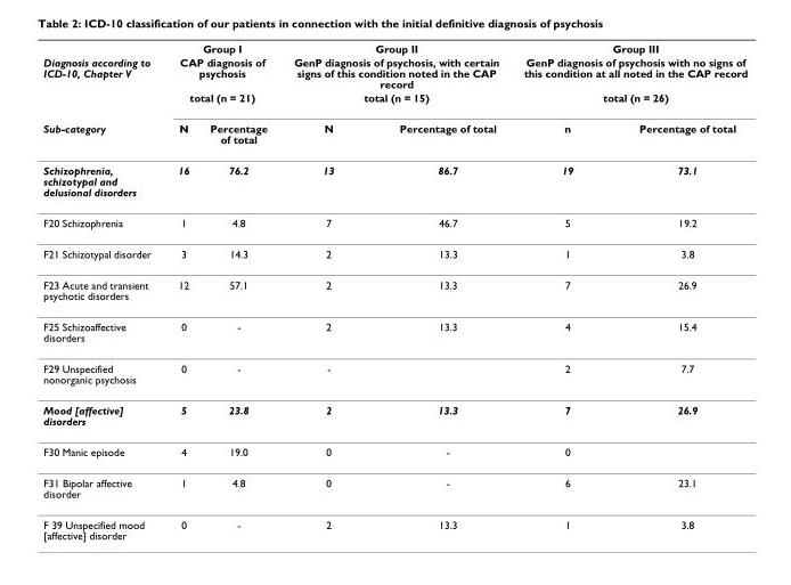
<table><thead><tr><td rowspan="4">Diagnosis according to ICD-10, Chapter V Sub-category</td><td rowspan="3" colspan="2">Group I CAP diagnosis of psychosis total (n = 21)</td><td rowspan="3" colspan="2">Group II GenP diagnosis of psychosis, with certain signs of this condition noted in the CAP record total (n = 15)</td><td rowspan="3" colspan="2">Group III GenP diagnosis of psychosis with no signs of this condition at all noted in the CAP record total (n = 26)</td></tr><tr></tr><tr></tr><tr><td>N</td><td>Percentage of total</td><td>N</td><td>Percentage of total</td><td>n</td><td>Percentage of total</td></tr></thead><tbody><tr><td>Schizophrenia, schizotypal and delusional disorders</td><td>16</td><td>76.2</td><td>13</td><td>86.7</td><td>19</td><td>73.1</td></tr><tr><td>F20 Schizophrenia</td><td>1</td><td>4.8</td><td>7</td><td>46.7</td><td>5</td><td>19.2</td></tr><tr><td>F21 Schizotypal disorder</td><td>3</td><td>14.3</td><td>2</td><td>13.3</td><td>1</td><td>3.8</td></tr><tr><td>F23 Acute and transient psychotic disorders</td><td>12</td><td>57.1</td><td>2</td><td>13.3</td><td>7</td><td>26.9</td></tr><tr><td>F25 Schizoaffective disorders</td><td>0</td><td>-</td><td>2</td><td>13.3</td><td>4</td><td>15.4</td></tr><tr><td>F29 Unspecified nonorganic psychosis</td><td>0</td><td>-</td><td>-</td><td></td><td>2</td><td>7.7</td></tr><tr><td>Mood [affective] disorders</td><td>5</td><td>23.8</td><td>2</td><td>13.3</td><td>7</td><td>26.9</td></tr><tr><td>F30 Manic episode</td><td>4</td><td>19.0</td><td>0</td><td>-</td><td>0</td><td></td></tr><tr><td>F31 Bipolar affective disorder</td><td>1</td><td>4.8</td><td>0</td><td>-</td><td>6</td><td>23.1</td></tr><tr><td>F 39 Unspecified mood [affective] disorder</td><td>0</td><td>-</td><td>2</td><td>13.3</td><td>1</td><td>3.8</td></tr></tbody></table>